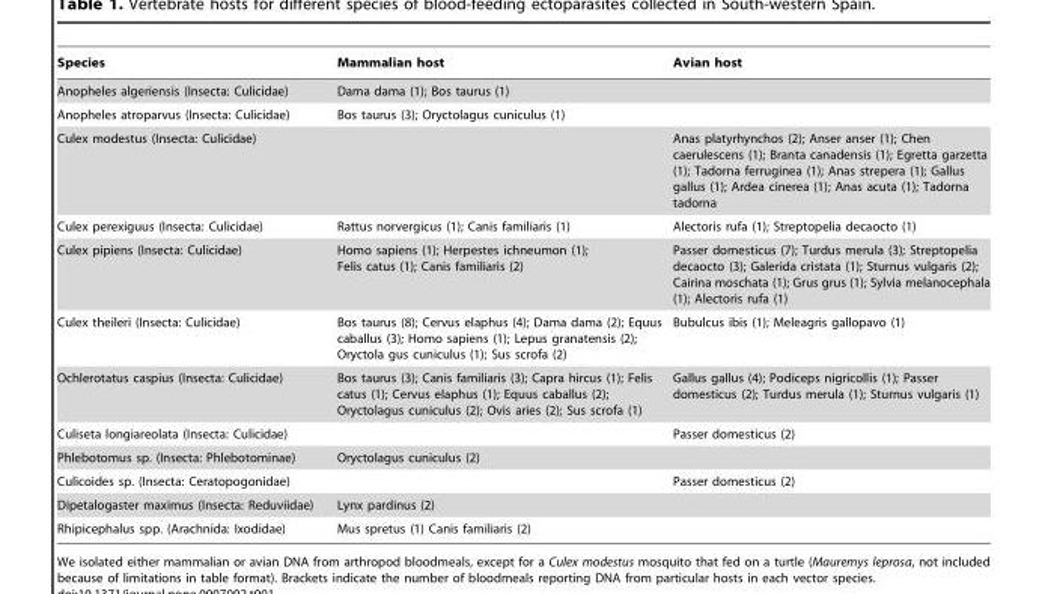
<table><thead><tr><td>Species</td><td>Mammalian host</td><td>Avian host</td></tr></thead><tbody><tr><td>Anopheles algeriensis (Insecta: Culicidae)</td><td>Dama dama (1); Bos taurus (1)</td><td></td></tr><tr><td>Anopheles atroparvus (Insecta: Culicidae)</td><td>Bos taurus (3); Oryctolagus cuniculus (1)</td><td></td></tr><tr><td>Culex modestus (Insecta: Culicidae)</td><td></td><td>Anas platyrhynchos (2); Anser anser (1); Chen caerulescens (1); Branta canadensis (1); Egretta garzetta (1); Tadorna ferruginea (1); Anas strepera (1); Gallus gallus (1); Ardea cinerea (1); Anas acuta (1); Tadorna tadorna</td></tr><tr><td>Culex perexiguus (Insecta: Culicidae)</td><td>Rattus norvergicus (1); Canis familiaris (1)</td><td>Alectoris rufa (1); Streptopelia decaocto (1)</td></tr><tr><td>Culex pipiens (Insecta: Culicidae)</td><td>Homo sapiens (1); Herpestes ichneumon (1); Felis catus (1); Canis familiaris (2)</td><td>Passer domesticus (7); Turdus merula (3); Streptopelia decaocto (3); Galerida cristata (1); Sturnus vulgaris (2); Cairina moschata (1); Grus grus (1); Sylvia melanocephala (1); Alectoris rufa (1)</td></tr><tr><td>Culex theileri (Insecta: Culicidae)</td><td>Bos taurus (8); Cervus elaphus (4); Dama dama (2); Equus caballus (3); Homo sapiens (1); Lepus granatensis (2); Oryctola gus cuniculus (1); Sus scrofa (2)</td><td>Bubulcus ibis (1); Meleagris gallopavo (1)</td></tr><tr><td>Ochlerotatus caspius (Insecta: Culicidae)</td><td>Bos taurus (3); Canis familiaris (3); Capra hircus (1); Felis catus (1); Cervus elaphus (1); Equus caballus (2); Oryctolagus cuniculus (2); Ovis aries (2); Sus scrofa (1)</td><td>Gallus gallus (4); Podiceps nigricollis (1); Passer domesticus (2); Turdus merula (1); Sturnus vulgaris (1)</td></tr><tr><td>Culiseta longiareolata (Insecta: Culicidae)</td><td></td><td>Passer domesticus (2)</td></tr><tr><td>Phlebotomus sp. (Insecta: Phlebotominae)</td><td>Oryctolagus cuniculus (2)</td><td></td></tr><tr><td>Culicoides sp. (Insecta: Ceratopogonidae)</td><td></td><td>Passer domesticus (2)</td></tr><tr><td>Dipetalogaster maximus (Insecta: Reduviidae)</td><td>Lynx pardinus (2)</td><td></td></tr><tr><td>Rhipicephalus spp. (Arachnida: Ixodidae)</td><td>Mus spretus (1) Canis familiaris (2)</td><td></td></tr></tbody></table>